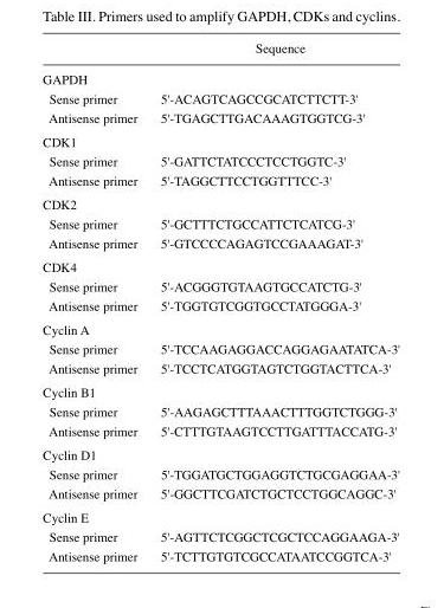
<table><thead><tr><td></td><td>Sequence</td></tr></thead><tbody><tr><td colspan="2">GAPDH</td></tr><tr><td>Sense primer</td><td>5&#x27;-ACAGTCAGCCGCATCTTCTT-3&#x27;</td></tr><tr><td>Antisense primer</td><td>5&#x27;-TGAGCTTGACAAAGTGGTCG-3&#x27;</td></tr><tr><td colspan="2">CDK1</td></tr><tr><td>Sense primer</td><td>5&#x27;-GATTCTATCCCTCCTGGTC-3&#x27;</td></tr><tr><td>Antisense primer</td><td>5&#x27;-TAGGCTTCCTGGTTTCC-3&#x27;</td></tr><tr><td colspan="2">CDK2</td></tr><tr><td>Sense primer</td><td>5&#x27;-GCTTTCTGCCATTCTCATCG-3&#x27;</td></tr><tr><td>Antisense primer</td><td>5&#x27;-GTCCCCAGAGTCCGAAAGAT-3&#x27;</td></tr><tr><td colspan="2">CDK4</td></tr><tr><td>Sense primer</td><td>5&#x27;-ACGGGTGTAAGTGCCATCTG-3&#x27;</td></tr><tr><td>Antisense primer</td><td>5&#x27;-TGGTGTCGGTGCCTATGGGA-3&#x27;</td></tr><tr><td colspan="2">Cyclin A</td></tr><tr><td>Sense primer</td><td>5&#x27;-TCCAAGAGGACCAGGAGAATATCA-3&#x27;</td></tr><tr><td>Antisense primer</td><td>5&#x27;-TCCTCATGGTAGTCTGGTACTTCA-3&#x27;</td></tr><tr><td colspan="2">Cyclin B1</td></tr><tr><td>Sense primer</td><td>5&#x27;-AAGAGCTTTAAACTTTGGTCTGGG-3&#x27;</td></tr><tr><td>Antisense primer</td><td>5&#x27;-CTTTGTAAGTCCTTGATTTACCATG-3&#x27;</td></tr><tr><td colspan="2">Cyclin D1</td></tr><tr><td>Sense primer</td><td>5&#x27;-TGGATGCTGGAGGTCTGCGAGGAA-3&#x27;</td></tr><tr><td>Antisense primer</td><td>5&#x27;-GGCTTCGATCTGCTCCTGGCAGGC-3&#x27;</td></tr><tr><td colspan="2">Cyclin E</td></tr><tr><td>Sense primer</td><td>5&#x27;-AGTTCTCGGCTCGCTCCAGGAAGA-3&#x27;</td></tr><tr><td>Antisense primer</td><td>5&#x27;-TCTTGTGTCGCCATAATCCGGTCA-3&#x27;</td></tr></tbody></table>